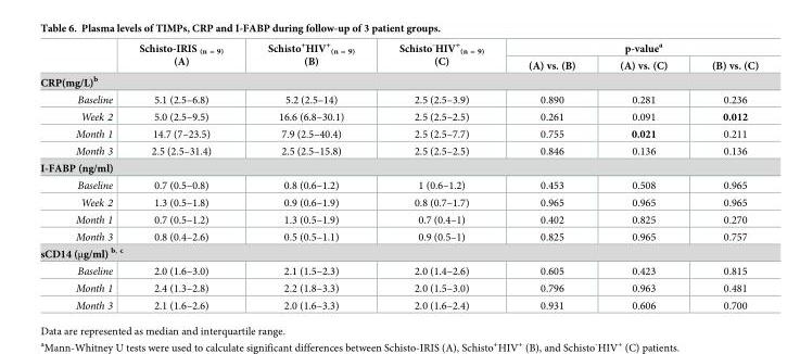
<table><thead><tr><td rowspan="2"></td><td rowspan="2">Schisto-IRIS <sub>(n = 9)</sub> (A)</td><td rowspan="2">Schisto<sup>+</sup>HIV<sup>+</sup> <sub>(n = 9)</sub> (B)</td><td rowspan="2">Schisto<sup>-</sup>HIV<sup>+</sup> <sub>(n = 9)</sub> (C)</td><td colspan="3">p-value<sup>a</sup></td></tr><tr><td>(A) vs. (B)</td><td>(A) vs. (C)</td><td>(B) vs. (C)</td></tr></thead><tbody><tr><td colspan="7">CRP(mg/L)<sup>b</sup></td></tr><tr><td>Baseline</td><td>5.1 (2.5–6.8)</td><td>5.2 (2.5–14)</td><td>2.5 (2.5–3.9)</td><td>0.890</td><td>0.281</td><td>0.236</td></tr><tr><td>Week 2</td><td>5.0 (2.5–9.5)</td><td>16.6 (6.8–30.1)</td><td>2.5 (2.5–2.5)</td><td>0.261</td><td>0.091</td><td>0.012</td></tr><tr><td>Month 1</td><td>14.7 (7–23.5)</td><td>7.9 (2.5–40.4)</td><td>2.5 (2.5–7.7)</td><td>0.755</td><td>0.021</td><td>0.211</td></tr><tr><td>Month 3</td><td>2.5 (2.5–31.4)</td><td>2.5 (2.5–15.8)</td><td>2.5 (2.5–2.5)</td><td>0.846</td><td>0.136</td><td>0.136</td></tr><tr><td colspan="7">I-FABP (ng/ml)</td></tr><tr><td>Baseline</td><td>0.7 (0.5–0.8)</td><td>0.8 (0.6–1.2)</td><td>1 (0.6–1.2)</td><td>0.453</td><td>0.508</td><td>0.965</td></tr><tr><td>Week 2</td><td>1.3 (0.5–1.8)</td><td>0.9 (0.6–1.9)</td><td>0.8 (0.7–1.7)</td><td>0.965</td><td>0.965</td><td>0.965</td></tr><tr><td>Month 1</td><td>0.7 (0.5–1.2)</td><td>1.3 (0.5–1.9)</td><td>0.7 (0.4–1)</td><td>0.402</td><td>0.825</td><td>0.270</td></tr><tr><td>Month 3</td><td>0.8 (0.4–2.6)</td><td>0.5 (0.5–1.1)</td><td>0.9 (0.5–1)</td><td>0.825</td><td>0.965</td><td>0.757</td></tr><tr><td colspan="7">sCD14 (μg/ml) <sup>b, c</sup></td></tr><tr><td>Baseline</td><td>2.0 (1.6–3.0)</td><td>2.1 (1.5–2.3)</td><td>2.0 (1.4–2.6)</td><td>0.605</td><td>0.423</td><td>0.815</td></tr><tr><td>Month 1</td><td>2.4 (1.3–2.8)</td><td>2.2 (1.8–3.3)</td><td>2.0 (1.5–3.0)</td><td>0.796</td><td>0.963</td><td>0.481</td></tr><tr><td>Month 3</td><td>2.1 (1.6–2.6)</td><td>2.0 (1.6–3.3)</td><td>2.0 (1.6–2.4)</td><td>0.931</td><td>0.606</td><td>0.700</td></tr></tbody></table>